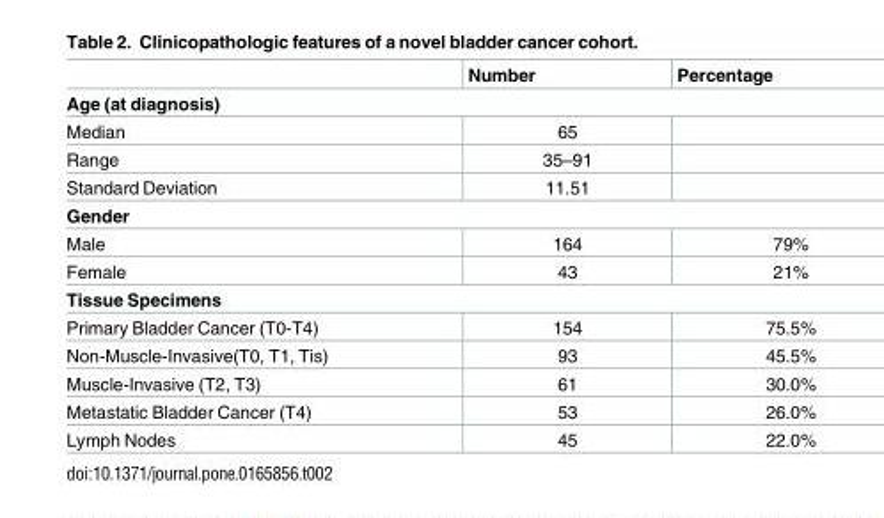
<table><thead><tr><td></td><td>Number</td><td>Percentage</td></tr></thead><tbody><tr><td colspan="3">Age (at diagnosis)</td></tr><tr><td>Median</td><td>65</td><td></td></tr><tr><td>Range</td><td>35–91</td><td></td></tr><tr><td>Standard Deviation</td><td>11.51</td><td></td></tr><tr><td colspan="3">Gender</td></tr><tr><td>Male</td><td>164</td><td>79%</td></tr><tr><td>Female</td><td>43</td><td>21%</td></tr><tr><td colspan="3">Tissue Specimens</td></tr><tr><td>Primary Bladder Cancer (T0-T4)</td><td>154</td><td>75.5%</td></tr><tr><td>Non-Muscle-Invasive(T0, T1, Tis)</td><td>93</td><td>45.5%</td></tr><tr><td>Muscle-Invasive (T2, T3)</td><td>61</td><td>30.0%</td></tr><tr><td>Metastatic Bladder Cancer (T4)</td><td>53</td><td>26.0%</td></tr><tr><td>Lymph Nodes</td><td>45</td><td>22.0%</td></tr></tbody></table>